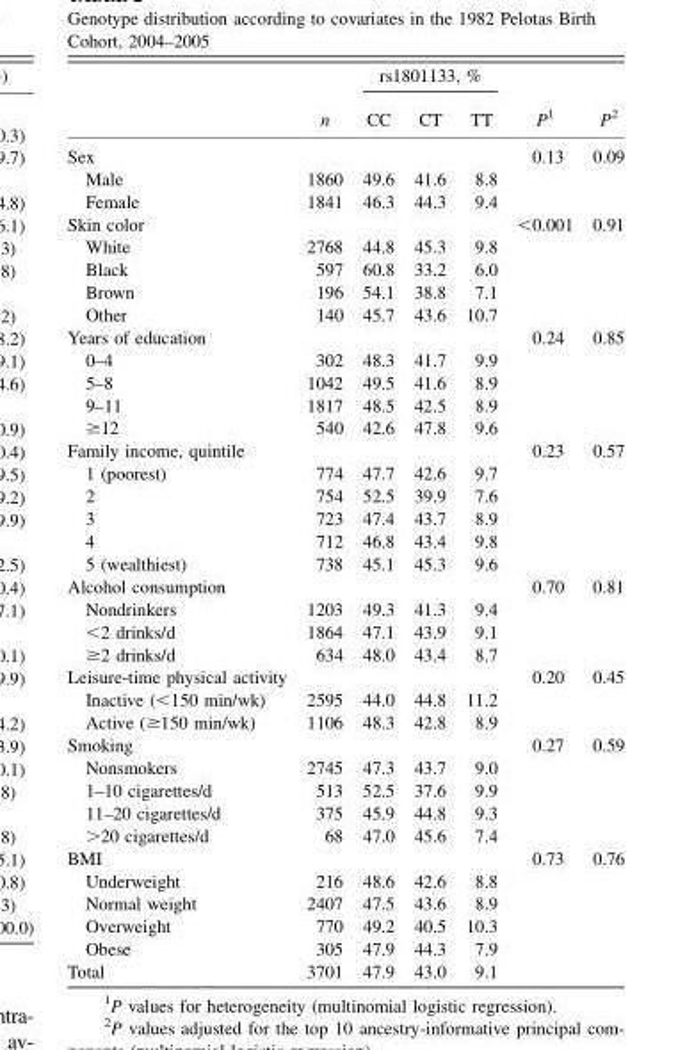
<table><thead><tr><td rowspan="2"></td><td rowspan="2">n</td><td colspan="3">rs1801133, %</td><td rowspan="2">P<sup>1</sup></td><td rowspan="2">P<sup>2</sup></td></tr><tr><td>CC</td><td>CT</td><td>TT</td></tr></thead><tbody><tr><td>Sex</td><td></td><td></td><td></td><td></td><td>0.13</td><td>0.09</td></tr><tr><td>Male</td><td>1860</td><td>49.6</td><td>41.6</td><td>8.8</td><td></td><td></td></tr><tr><td>Female</td><td>1841</td><td>46.3</td><td>44.3</td><td>9.4</td><td></td><td></td></tr><tr><td>Skin color</td><td></td><td></td><td></td><td></td><td>&lt;0.001</td><td>0.91</td></tr><tr><td>White</td><td>2768</td><td>44.8</td><td>45.3</td><td>9.8</td><td></td><td></td></tr><tr><td>Black</td><td>597</td><td>60.8</td><td>33.2</td><td>6.0</td><td></td><td></td></tr><tr><td>Brown</td><td>196</td><td>54.1</td><td>38.8</td><td>7.1</td><td></td><td></td></tr><tr><td>Other</td><td>140</td><td>45.7</td><td>43.6</td><td>10.7</td><td></td><td></td></tr><tr><td>Years of education</td><td></td><td></td><td></td><td></td><td>0.24</td><td>0.85</td></tr><tr><td>0–4</td><td>302</td><td>48.3</td><td>41.7</td><td>9.9</td><td></td><td></td></tr><tr><td>5–8</td><td>1042</td><td>49.5</td><td>41.6</td><td>8.9</td><td></td><td></td></tr><tr><td>9–11</td><td>1817</td><td>48.5</td><td>42.5</td><td>8.9</td><td></td><td></td></tr><tr><td>≥12</td><td>540</td><td>42.6</td><td>47.8</td><td>9.6</td><td></td><td></td></tr><tr><td>Family income, quintile</td><td></td><td></td><td></td><td></td><td>0.23</td><td>0.57</td></tr><tr><td>1 (poorest)</td><td>774</td><td>47.7</td><td>42.6</td><td>9.7</td><td></td><td></td></tr><tr><td>2</td><td>754</td><td>52.5</td><td>39.9</td><td>7.6</td><td></td><td></td></tr><tr><td>3</td><td>723</td><td>47.4</td><td>43.7</td><td>8.9</td><td></td><td></td></tr><tr><td>4</td><td>712</td><td>46.8</td><td>43.4</td><td>9.8</td><td></td><td></td></tr><tr><td>5 (wealthiest)</td><td>738</td><td>45.1</td><td>45.3</td><td>9.6</td><td></td><td></td></tr><tr><td>Alcohol consumption</td><td></td><td></td><td></td><td></td><td>0.70</td><td>0.81</td></tr><tr><td>Nondrinkers</td><td>1203</td><td>49.3</td><td>41.3</td><td>9.4</td><td></td><td></td></tr><tr><td>&lt;2 drinks/d</td><td>1864</td><td>47.1</td><td>43.9</td><td>9.1</td><td></td><td></td></tr><tr><td>≥2 drinks/d</td><td>634</td><td>48.0</td><td>43.4</td><td>8.7</td><td></td><td></td></tr><tr><td>Leisure-time physical activity</td><td></td><td></td><td></td><td></td><td>0.20</td><td>0.45</td></tr><tr><td>Inactive (&lt;150 min/wk)</td><td>2595</td><td>44.0</td><td>44.8</td><td>11.2</td><td></td><td></td></tr><tr><td>Active (≥150 min/wk)</td><td>1106</td><td>48.3</td><td>42.8</td><td>8.9</td><td></td><td></td></tr><tr><td>Smoking</td><td></td><td></td><td></td><td></td><td>0.27</td><td>0.59</td></tr><tr><td>Nonsmokers</td><td>2745</td><td>47.3</td><td>43.7</td><td>9.0</td><td></td><td></td></tr><tr><td>1–10 cigarettes/d</td><td>513</td><td>52.5</td><td>37.6</td><td>9.9</td><td></td><td></td></tr><tr><td>11–20 cigarettes/d</td><td>375</td><td>45.9</td><td>44.8</td><td>9.3</td><td></td><td></td></tr><tr><td>&gt;20 cigarettes/d</td><td>68</td><td>47.0</td><td>45.6</td><td>7.4</td><td></td><td></td></tr><tr><td>BMI</td><td></td><td></td><td></td><td></td><td>0.73</td><td>0.76</td></tr><tr><td>Underweight</td><td>216</td><td>48.6</td><td>42.6</td><td>8.8</td><td></td><td></td></tr><tr><td>Normal weight</td><td>2407</td><td>47.5</td><td>43.6</td><td>8.9</td><td></td><td></td></tr><tr><td>Overweight</td><td>770</td><td>49.2</td><td>40.5</td><td>10.3</td><td></td><td></td></tr><tr><td>Obese</td><td>305</td><td>47.9</td><td>44.3</td><td>7.9</td><td></td><td></td></tr><tr><td>Total</td><td>3701</td><td>47.9</td><td>43.0</td><td>9.1</td><td></td><td></td></tr></tbody></table>